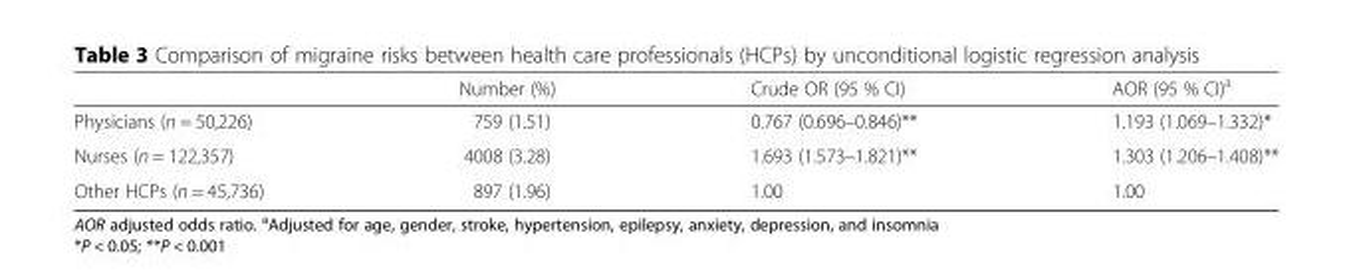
<table><thead><tr><td></td><td>Number (%)</td><td>Crude OR (95 % CI)</td><td>AOR (95 % CI)<sup>a</sup></td></tr></thead><tbody><tr><td>Physicians (n = 50,226)</td><td>759 (1.51)</td><td>0.767 (0.696–0.846)**</td><td>1.193 (1.069–1.332)*</td></tr><tr><td>Nurses (n = 122,357)</td><td>4008 (3.28)</td><td>1.693 (1.573–1.821)**</td><td>1.303 (1.206–1.408)**</td></tr><tr><td>Other HCPs (n = 45,736)</td><td>897 (1.96)</td><td>1.00</td><td>1.00</td></tr></tbody></table>